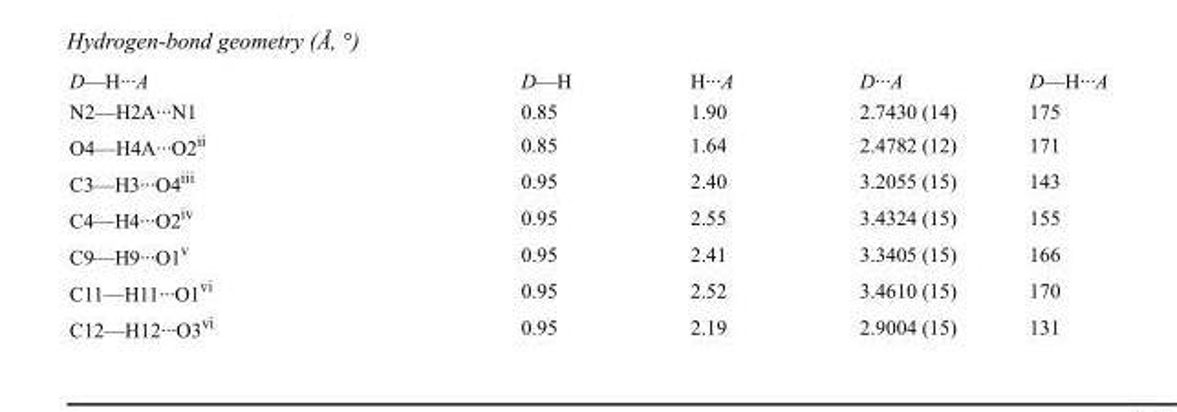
<table><tbody><tr><td>D—H···A</td><td>D—H</td><td>H···A</td><td>D···A</td><td>D—H···A</td></tr><tr><td>N2—H2A···N1</td><td>0.85</td><td>1.90</td><td>2.7430 (14)</td><td>175</td></tr><tr><td>O4—H4A···O2<sup>ii</sup></td><td>0.85</td><td>1.64</td><td>2.4782 (12)</td><td>171</td></tr><tr><td>C3—H3···O4<sup>iii</sup></td><td>0.95</td><td>2.40</td><td>3.2055 (15)</td><td>143</td></tr><tr><td>C4—H4···O2<sup>iv</sup></td><td>0.95</td><td>2.55</td><td>3.4324 (15)</td><td>155</td></tr><tr><td>C9—H9···O1<sup>v</sup></td><td>0.95</td><td>2.41</td><td>3.3405 (15)</td><td>166</td></tr><tr><td>C11—H11···O1<sup>vi</sup></td><td>0.95</td><td>2.52</td><td>3.4610 (15)</td><td>170</td></tr><tr><td>C12—H12···O3<sup>vi</sup></td><td>0.95</td><td>2.19</td><td>2.9004 (15)</td><td>131</td></tr></tbody></table>